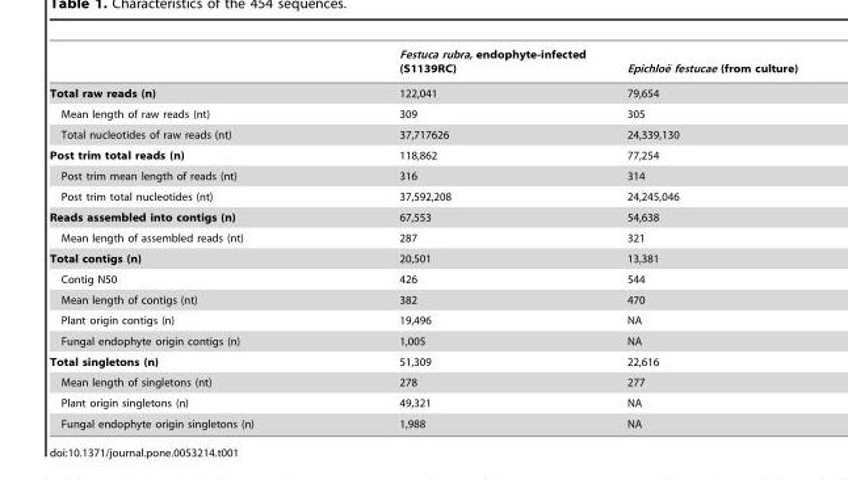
<table><thead><tr><td></td><td>Festuca rubra, endophyte-infected (S1139RC)</td><td>Epichloe¨ festucae (from culture)</td></tr></thead><tbody><tr><td>Total raw reads (n)</td><td>122,041</td><td>79,654</td></tr><tr><td>Mean length of raw reads (nt)</td><td>309</td><td>305</td></tr><tr><td>Total nucleotides of raw reads (nt)</td><td>37,717626</td><td>24,339,130</td></tr><tr><td>Post trim total reads (n)</td><td>118,862</td><td>77,254</td></tr><tr><td>Post trim mean length of reads (nt)</td><td>316</td><td>314</td></tr><tr><td>Post trim total nucleotides (nt)</td><td>37,592,208</td><td>24,245,046</td></tr><tr><td>Reads assembled into contigs (n)</td><td>67,553</td><td>54,638</td></tr><tr><td>Mean length of assembled reads (nt)</td><td>287</td><td>321</td></tr><tr><td>Total contigs (n)</td><td>20,501</td><td>13,381</td></tr><tr><td>Contig N50</td><td>426</td><td>544</td></tr><tr><td>Mean length of contigs (nt)</td><td>382</td><td>470</td></tr><tr><td>Plant origin contigs (n)</td><td>19,496</td><td>NA</td></tr><tr><td>Fungal endophyte origin contigs (n)</td><td>1,005</td><td>NA</td></tr><tr><td>Total singletons (n)</td><td>51,309</td><td>22,616</td></tr><tr><td>Mean length of singletons (nt)</td><td>278</td><td>277</td></tr><tr><td>Plant origin singletons (n)</td><td>49,321</td><td>NA</td></tr><tr><td>Fungal endophyte origin singletons (n)</td><td>1,988</td><td>NA</td></tr></tbody></table>